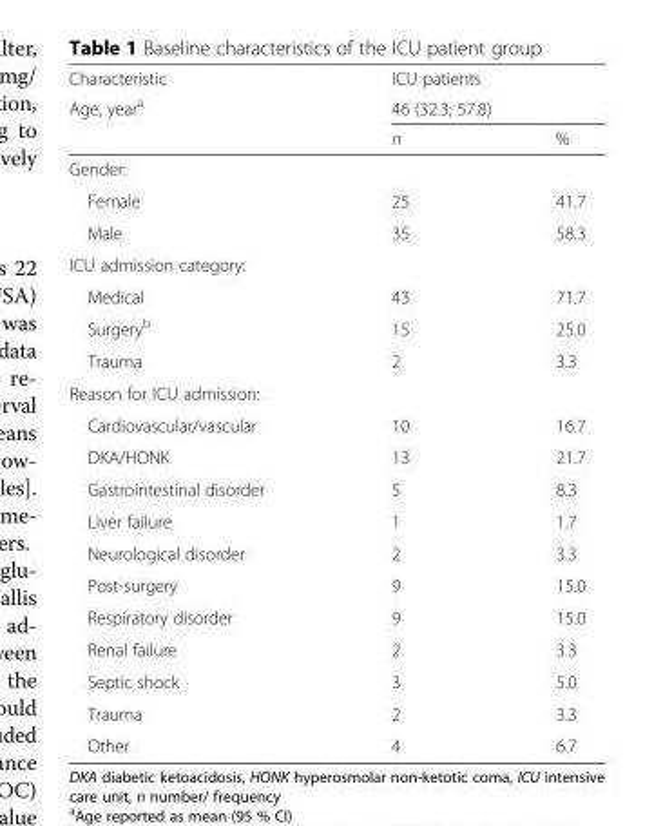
<table><thead><tr><td rowspan="3">Characteristic Age, year<sup>a</sup></td><td rowspan="2" colspan="2">ICU patients 46 (32.3; 57.8)</td></tr><tr></tr><tr><td>n</td><td>%</td></tr></thead><tbody><tr><td colspan="3">Gender:</td></tr><tr><td>Female</td><td>25</td><td>41.7</td></tr><tr><td>Male</td><td>35</td><td>58.3</td></tr><tr><td colspan="3">ICU admission category:</td></tr><tr><td>Medical</td><td>43</td><td>71.7</td></tr><tr><td>Surgery<sup>b</sup></td><td>15</td><td>25.0</td></tr><tr><td>Trauma</td><td>2</td><td>3.3</td></tr><tr><td colspan="3">Reason for ICU admission:</td></tr><tr><td>Cardiovascular/vascular</td><td>10</td><td>16.7</td></tr><tr><td>DKA/HONK</td><td>13</td><td>21.7</td></tr><tr><td>Gastrointestinal disorder</td><td>5</td><td>8.3</td></tr><tr><td>Liver failure</td><td>1</td><td>1.7</td></tr><tr><td>Neurological disorder</td><td>2</td><td>3.3</td></tr><tr><td>Post-surgery</td><td>9</td><td>15.0</td></tr><tr><td>Respiratory disorder</td><td>9</td><td>15.0</td></tr><tr><td>Renal failure</td><td>2</td><td>3.3</td></tr><tr><td>Septic shock</td><td>3</td><td>5.0</td></tr><tr><td>Trauma</td><td>2</td><td>3.3</td></tr><tr><td>Other</td><td>4</td><td>6.7</td></tr></tbody></table>